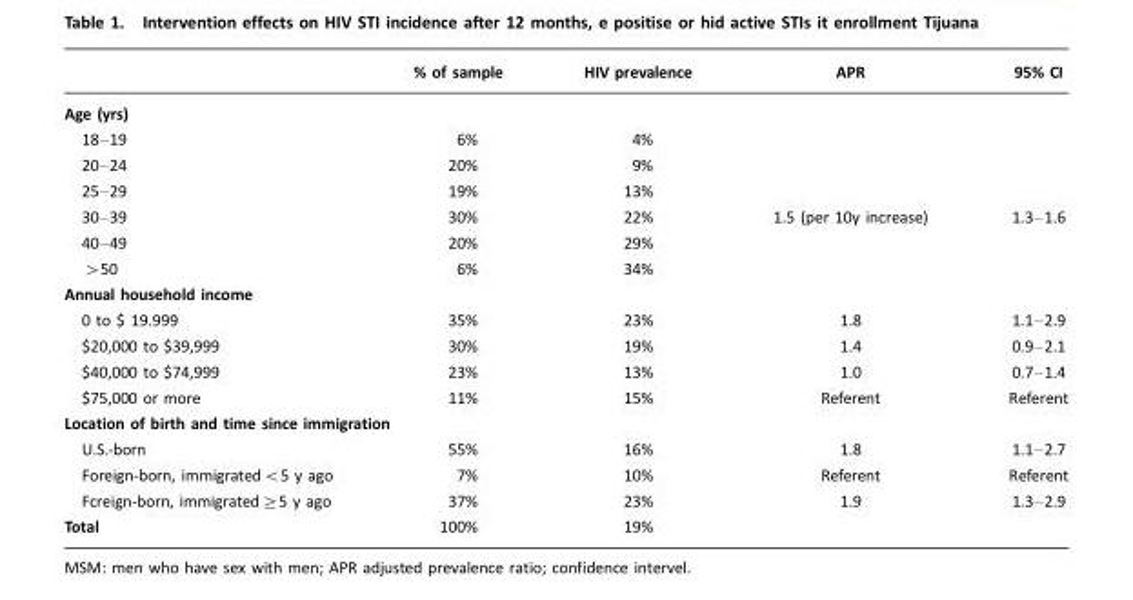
<table><thead><tr><td></td><td>% of sample</td><td>HIV prevalence</td><td>APR</td><td>95% CI</td></tr></thead><tbody><tr><td colspan="5">Age (yrs)</td></tr><tr><td>18–19</td><td>6%</td><td>4%</td><td></td><td></td></tr><tr><td>20–24</td><td>20%</td><td>9%</td><td></td><td></td></tr><tr><td>25–29</td><td>19%</td><td>13%</td><td></td><td></td></tr><tr><td>30–39</td><td>30%</td><td>22%</td><td>1.5 (per 10y increase)</td><td>1.3–1.6</td></tr><tr><td>40–49</td><td>20%</td><td>29%</td><td></td><td></td></tr><tr><td>&gt;50</td><td>6%</td><td>34%</td><td></td><td></td></tr><tr><td colspan="5">Annual household income</td></tr><tr><td>0 to $ 19.999</td><td>35%</td><td>23%</td><td>1.8</td><td>1.1–2.9</td></tr><tr><td>$20,000 to $39,999</td><td>30%</td><td>19%</td><td>1.4</td><td>0.9–2.1</td></tr><tr><td>$40,000 to $74,999</td><td>23%</td><td>13%</td><td>1.0</td><td>0.7–1.4</td></tr><tr><td>$75,000 or more</td><td>11%</td><td>15%</td><td>Referent</td><td>Referent</td></tr><tr><td colspan="5">Location of birth and time since immigration</td></tr><tr><td>U.S.-born</td><td>55%</td><td>16%</td><td>1.8</td><td>1.1–2.7</td></tr><tr><td>Foreign-born, immigrated&lt;5 y ago</td><td>7%</td><td>10%</td><td>Referent</td><td>Referent</td></tr><tr><td>Fcreign-born, immigrated≥5 y ago</td><td>37%</td><td>23%</td><td>1.9</td><td>1.3–2.9</td></tr><tr><td>Total</td><td>100%</td><td>19%</td><td></td><td></td></tr></tbody></table>